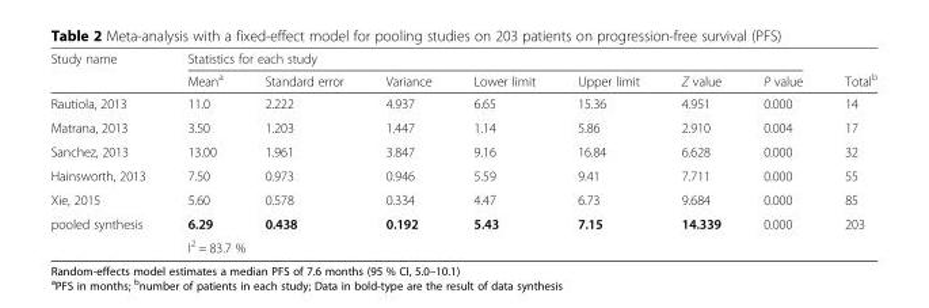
<table><thead><tr><td rowspan="2">Study name</td><td colspan="7">Statistics for each study</td><td rowspan="2">Total<sup>b</sup></td></tr><tr><td>Mean<sup>a</sup></td><td>Standard error</td><td>Variance</td><td>Lower limit</td><td>Upper limit</td><td>Z value</td><td>P value</td></tr></thead><tbody><tr><td>Rautiola, 2013</td><td>11.0</td><td>2.222</td><td>4.937</td><td>6.65</td><td>15.36</td><td>4.951</td><td>0.000</td><td>14</td></tr><tr><td>Matrana, 2013</td><td>3.50</td><td>1.203</td><td>1.447</td><td>1.14</td><td>5.86</td><td>2.910</td><td>0.004</td><td>17</td></tr><tr><td>Sanchez, 2013</td><td>13.00</td><td>1.961</td><td>3.847</td><td>9.16</td><td>16.84</td><td>6.628</td><td>0.000</td><td>32</td></tr><tr><td>Hainsworth, 2013</td><td>7.50</td><td>0.973</td><td>0.946</td><td>5.59</td><td>9.41</td><td>7.711</td><td>0.000</td><td>55</td></tr><tr><td>Xie, 2015</td><td>5.60</td><td>0.578</td><td>0.334</td><td>4.47</td><td>6.73</td><td>9.684</td><td>0.000</td><td>85</td></tr><tr><td rowspan="2">pooled synthesis</td><td>6.29</td><td>0.438</td><td>0.192</td><td>5.43</td><td>7.15</td><td>14.339</td><td>0.000</td><td>203</td></tr><tr><td colspan="7">I<sup>2</sup> = 83.7 %</td><td></td></tr></tbody></table>